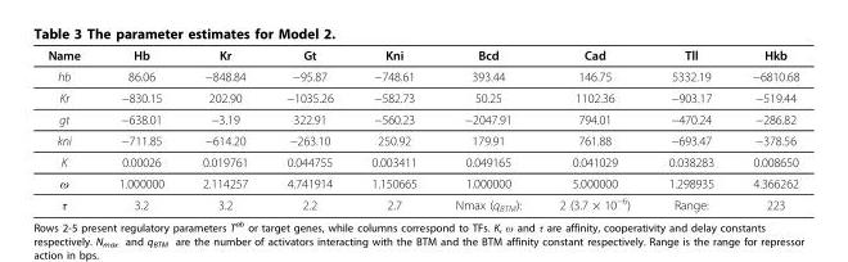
<table><thead><tr><td>Name</td><td>Hb</td><td>Kr</td><td>Gt</td><td>Kni</td><td>Bcd</td><td>Cad</td><td>Tll</td><td>Hkb</td></tr></thead><tbody><tr><td>hb</td><td>86.06</td><td>−848.84</td><td>−95.87</td><td>−748.61</td><td>393.44</td><td>146.75</td><td>5332.19</td><td>−6810.68</td></tr><tr><td>Kr</td><td>−830.15</td><td>202.90</td><td>−1035.26</td><td>−582.73</td><td>50.25</td><td>1102.36</td><td>−903.17</td><td>−519.44</td></tr><tr><td>gt</td><td>−638.01</td><td>−3.19</td><td>322.91</td><td>−560.23</td><td>−2047.91</td><td>794.01</td><td>−470.24</td><td>−286.82</td></tr><tr><td>kni</td><td>−711.85</td><td>−614.20</td><td>−263.10</td><td>250.92</td><td>179.91</td><td>761.88</td><td>−693.47</td><td>−378.56</td></tr><tr><td>K</td><td>0.00026</td><td>0.019761</td><td>0.044755</td><td>0.003411</td><td>0.049165</td><td>0.041029</td><td>0.038283</td><td>0.008650</td></tr><tr><td>ω</td><td>1.000000</td><td>2.114257</td><td>4.741914</td><td>1.150665</td><td>1.000000</td><td>5.000000</td><td>1.298935</td><td>4.366262</td></tr><tr><td>τ</td><td>3.2</td><td>3.2</td><td>2.2</td><td>2.7</td><td>Nmax (q<sub>BTM</sub>):</td><td>2 (3.7 × 10<sup>−6</sup>)</td><td>Range:</td><td>223</td></tr></tbody></table>